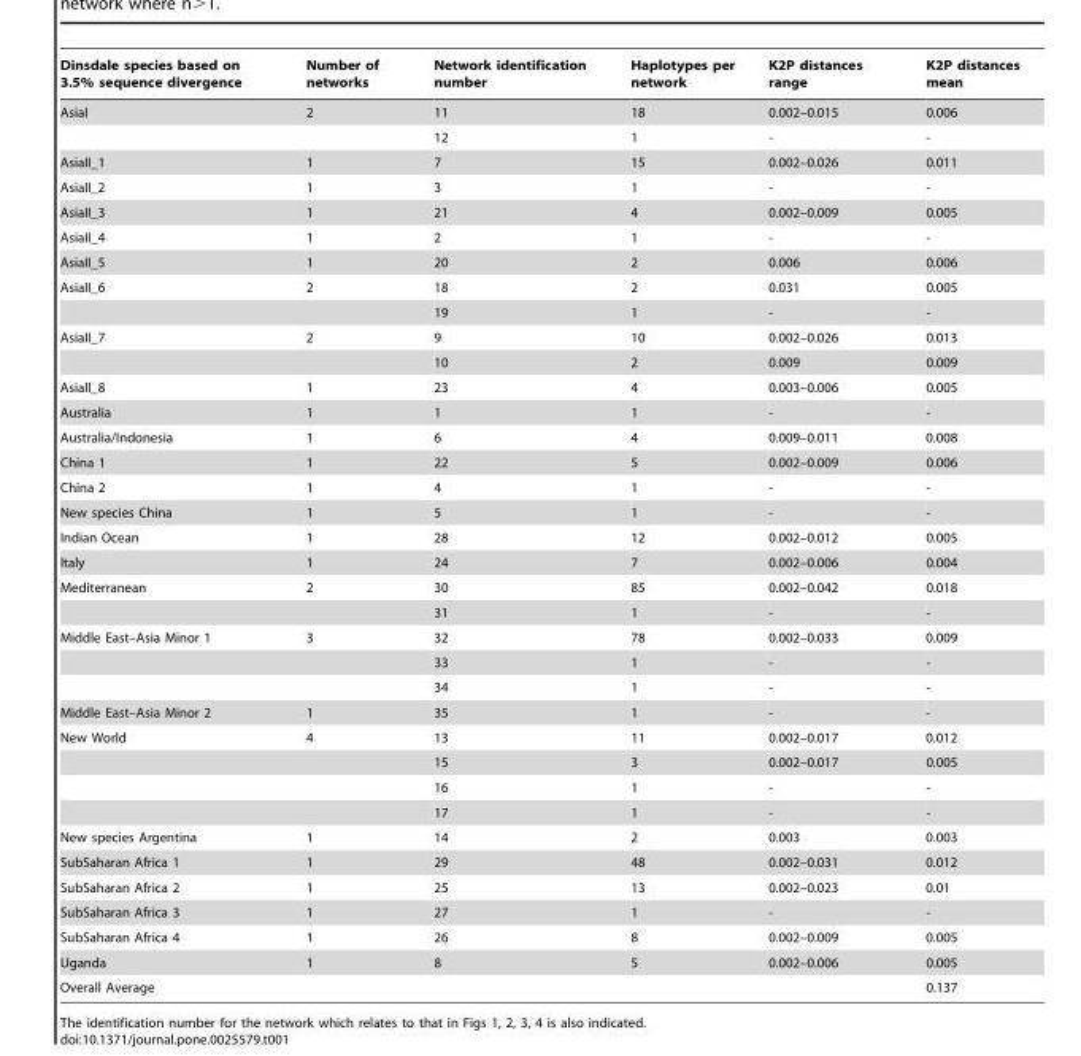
<table><thead><tr><td>Dinsdale species based on 3.5% sequence divergence</td><td>Number of networks</td><td>Network identification number</td><td>Haplotypes per network</td><td>K2P distances range</td><td>K2P distances mean</td></tr></thead><tbody><tr><td rowspan="2">AsiaI</td><td>2</td><td>11</td><td>18</td><td>0.002–0.015</td><td>0.006</td></tr><tr><td></td><td>12</td><td>1</td><td>-</td><td>-</td></tr><tr><td>AsiaII_1</td><td>1</td><td>7</td><td>15</td><td>0.002–0.026</td><td>0.011</td></tr><tr><td>AsiaII_2</td><td>1</td><td>3</td><td>1</td><td>-</td><td>-</td></tr><tr><td>AsiaII_3</td><td>1</td><td>21</td><td>4</td><td>0.002–0.009</td><td>0.005</td></tr><tr><td>AsiaII_4</td><td>1</td><td>2</td><td>1</td><td>-</td><td>-</td></tr><tr><td>AsiaII_5</td><td>1</td><td>20</td><td>2</td><td>0.006</td><td>0.006</td></tr><tr><td rowspan="2">AsiaII_6</td><td>2</td><td>18</td><td>2</td><td>0.031</td><td>0.005</td></tr><tr><td></td><td>19</td><td>1</td><td>-</td><td>-</td></tr><tr><td rowspan="2">AsiaII_7</td><td>2</td><td>9</td><td>10</td><td>0.002–0.026</td><td>0.013</td></tr><tr><td></td><td>10</td><td>2</td><td>0.009</td><td>0.009</td></tr><tr><td>AsiaII_8</td><td>1</td><td>23</td><td>4</td><td>0.003–0.006</td><td>0.005</td></tr><tr><td>Australia</td><td>1</td><td>1</td><td>1</td><td>-</td><td>-</td></tr><tr><td>Australia/Indonesia</td><td>1</td><td>6</td><td>4</td><td>0.009–0.011</td><td>0.008</td></tr><tr><td>China 1</td><td>1</td><td>22</td><td>5</td><td>0.002–0.009</td><td>0.006</td></tr><tr><td>China 2</td><td>1</td><td>4</td><td>1</td><td>-</td><td>-</td></tr><tr><td>New species China</td><td>1</td><td>5</td><td>1</td><td>-</td><td>-</td></tr><tr><td>Indian Ocean</td><td>1</td><td>28</td><td>12</td><td>0.002–0.012</td><td>0.005</td></tr><tr><td>Italy</td><td>1</td><td>24</td><td>7</td><td>0.002–0.006</td><td>0.004</td></tr><tr><td rowspan="2">Mediterranean</td><td>2</td><td>30</td><td>85</td><td>0.002–0.042</td><td>0.018</td></tr><tr><td></td><td>31</td><td>1</td><td>-</td><td>-</td></tr><tr><td rowspan="3">Middle East–Asia Minor 1</td><td>3</td><td>32</td><td>78</td><td>0.002–0.033</td><td>0.009</td></tr><tr><td></td><td>33</td><td>1</td><td>-</td><td>-</td></tr><tr><td></td><td>34</td><td>1</td><td>-</td><td>-</td></tr><tr><td>Middle East–Asia Minor 2</td><td>1</td><td>35</td><td>1</td><td>-</td><td>-</td></tr><tr><td rowspan="4">New World</td><td>4</td><td>13</td><td>11</td><td>0.002–0.017</td><td>0.012</td></tr><tr><td></td><td>15</td><td>3</td><td>0.002–0.017</td><td>0.005</td></tr><tr><td></td><td>16</td><td>1</td><td>-</td><td>-</td></tr><tr><td></td><td>17</td><td>1</td><td>-</td><td>-</td></tr><tr><td>New species Argentina</td><td>1</td><td>14</td><td>2</td><td>0.003</td><td>0.003</td></tr><tr><td>SubSaharan Africa 1</td><td>1</td><td>29</td><td>48</td><td>0.002–0.031</td><td>0.012</td></tr><tr><td>SubSaharan Africa 2</td><td>1</td><td>25</td><td>13</td><td>0.002–0.023</td><td>0.01</td></tr><tr><td>SubSaharan Africa 3</td><td>1</td><td>27</td><td>1</td><td>-</td><td>-</td></tr><tr><td>SubSaharan Africa 4</td><td>1</td><td>26</td><td>8</td><td>0.002–0.009</td><td>0.005</td></tr><tr><td>Uganda</td><td>1</td><td>8</td><td>5</td><td>0.002–0.006</td><td>0.005</td></tr><tr><td>Overall Average</td><td></td><td></td><td></td><td></td><td>0.137</td></tr></tbody></table>